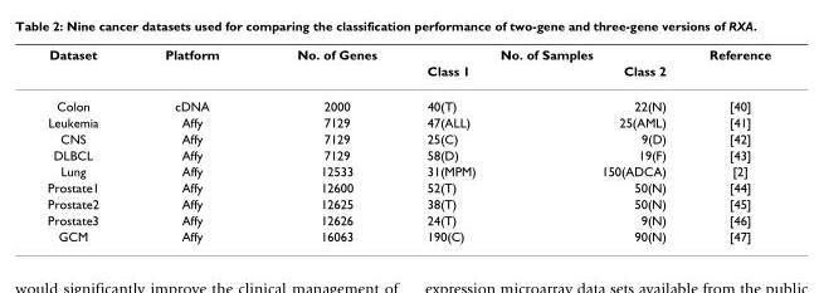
<table><thead><tr><td rowspan="2">Dataset</td><td rowspan="2">Platform</td><td rowspan="2">No. of Genes</td><td colspan="2">No. of Samples</td><td rowspan="2">Reference</td></tr><tr><td>Class 1</td><td>Class 2</td></tr></thead><tbody><tr><td>Colon</td><td>cDNA</td><td>2000</td><td>40(T)</td><td>22(N)</td><td>[40]</td></tr><tr><td>Leukemia</td><td>Affy</td><td>7129</td><td>47(ALL)</td><td>25(AML)</td><td>[41]</td></tr><tr><td>CNS</td><td>Affy</td><td>7129</td><td>25(C)</td><td>9(D)</td><td>[42]</td></tr><tr><td>DLBCL</td><td>Affy</td><td>7129</td><td>58(D)</td><td>19(F)</td><td>[43]</td></tr><tr><td>Lung</td><td>Affy</td><td>12533</td><td>31(MPM)</td><td>150(ADCA)</td><td>[2]</td></tr><tr><td>Prostate1</td><td>Affy</td><td>12600</td><td>52(T)</td><td>50(N)</td><td>[44]</td></tr><tr><td>Prostate2</td><td>Affy</td><td>12625</td><td>38(T)</td><td>50(N)</td><td>[45]</td></tr><tr><td>Prostate3</td><td>Affy</td><td>12626</td><td>24(T)</td><td>9(N)</td><td>[46]</td></tr><tr><td>GCM</td><td>Affy</td><td>16063</td><td>190(C)</td><td>90(N)</td><td>[47]</td></tr></tbody></table>